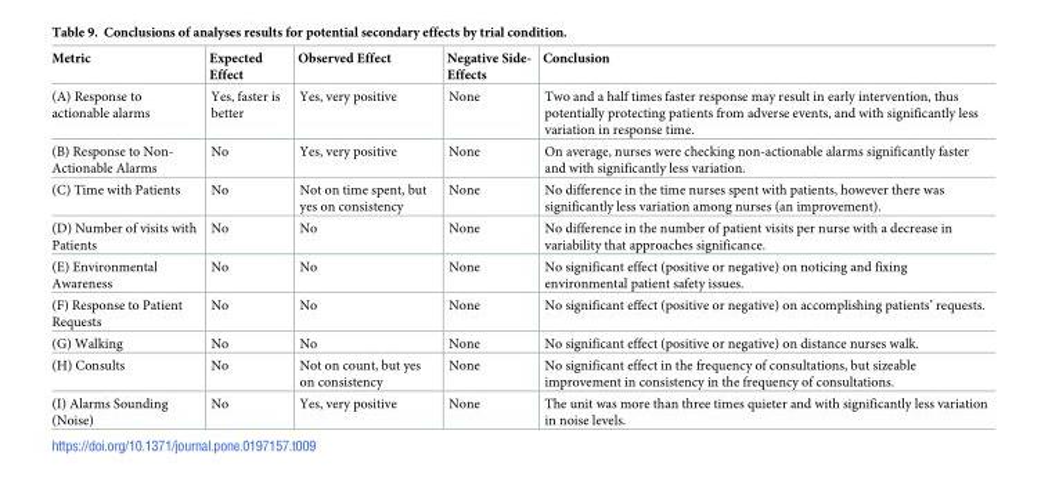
<table><thead><tr><td>Metric</td><td>Expected Effect</td><td>Observed Effect</td><td>Negative Side- Effects</td><td>Conclusion</td></tr></thead><tbody><tr><td>(A) Response to actionable alarms</td><td>Yes, faster is better</td><td>Yes, very positive</td><td>None</td><td>Two and a half times faster response may result in early intervention, thus potentially protecting patients from adverse events, and with significantly less variation in response time.</td></tr><tr><td>(B) Response to Non- Actionable Alarms</td><td>No</td><td>Yes, very positive</td><td>None</td><td>On average, nurses were checking non-actionable alarms significantly faster and with significantly less variation.</td></tr><tr><td>(C) Time with Patients</td><td>No</td><td>Not on time spent, but yes on consistency</td><td>None</td><td>No difference in the time nurses spent with patients, however there was significantly less variation among nurses (an improvement).</td></tr><tr><td>(D) Number of visits with Patients</td><td>No</td><td>No</td><td>None</td><td>No difference in the number of patient visits per nurse with a decrease in variability that approaches significance.</td></tr><tr><td>(E) Environmental Awareness</td><td>No</td><td>No</td><td>None</td><td>No significant effect (positive or negative) on noticing and fixing environmental patient safety issues.</td></tr><tr><td>(F) Response to Patient Requests</td><td>No</td><td>No</td><td>None</td><td>No significant effect (positive or negative) on accomplishing patients’ requests.</td></tr><tr><td>(G) Walking</td><td>No</td><td>No</td><td>None</td><td>No significant effect (positive or negative) on distance nurses walk.</td></tr><tr><td>(H) Consults</td><td>No</td><td>Not on count, but yes on consistency</td><td>None</td><td>No significant effect in the frequency of consultations, but sizeable improvement in consistency in the frequency of consultations.</td></tr><tr><td>(I) Alarms Sounding (Noise)</td><td>No</td><td>Yes, very positive</td><td>None</td><td>The unit was more than three times quieter and with significantly less variation in noise levels.</td></tr></tbody></table>